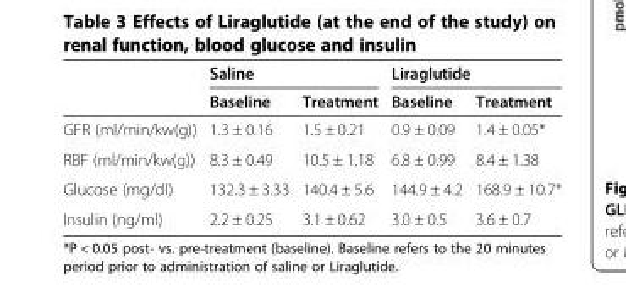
<table><thead><tr><td rowspan="2"></td><td colspan="2">Saline</td><td colspan="2">Liraglutide</td></tr><tr><td>Baseline</td><td>Treatment</td><td>Baseline</td><td>Treatment</td></tr></thead><tbody><tr><td>GFR (ml/min/kw(g))</td><td>1.3 ± 0.16</td><td>1.5 ± 0.21</td><td>0.9 ± 0.09</td><td>1.4 ± 0.05*</td></tr><tr><td>RBF (ml/min/kw(g))</td><td>8.3 ± 0.49</td><td>10.5 ± 1.18</td><td>6.8 ± 0.99</td><td>8.4 ± 1.38</td></tr><tr><td>Glucose (mg/dl)</td><td>132.3 ± 3.33</td><td>140.4 ± 5.6</td><td>144.9 ± 4.2</td><td>168.9 ± 10.7*</td></tr><tr><td>Insulin (ng/ml)</td><td>2.2 ± 0.25</td><td>3.1 ± 0.62</td><td>3.0 ± 0.5</td><td>3.6 ± 0.7</td></tr></tbody></table>